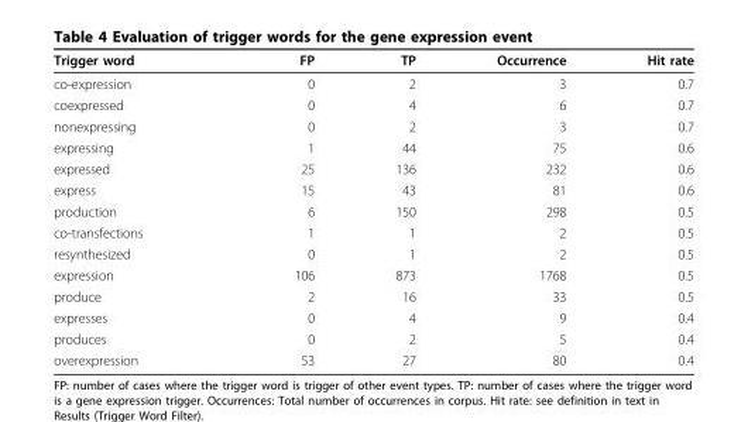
<table><thead><tr><td>Trigger word</td><td>FP</td><td>TP</td><td>Occurrence</td><td>Hit rate</td></tr></thead><tbody><tr><td>co-expression</td><td>0</td><td>2</td><td>3</td><td>0.7</td></tr><tr><td>coexpressed</td><td>0</td><td>4</td><td>6</td><td>0.7</td></tr><tr><td>nonexpressing</td><td>0</td><td>2</td><td>3</td><td>0.7</td></tr><tr><td>expressing</td><td>1</td><td>44</td><td>75</td><td>0.6</td></tr><tr><td>expressed</td><td>25</td><td>136</td><td>232</td><td>0.6</td></tr><tr><td>express</td><td>15</td><td>43</td><td>81</td><td>0.6</td></tr><tr><td>production</td><td>6</td><td>150</td><td>298</td><td>0.5</td></tr><tr><td>co-transfections</td><td>1</td><td>1</td><td>2</td><td>0.5</td></tr><tr><td>resynthesized</td><td>0</td><td>1</td><td>2</td><td>0.5</td></tr><tr><td>expression</td><td>106</td><td>873</td><td>1768</td><td>0.5</td></tr><tr><td>produce</td><td>2</td><td>16</td><td>33</td><td>0.5</td></tr><tr><td>expresses</td><td>0</td><td>4</td><td>9</td><td>0.4</td></tr><tr><td>produces</td><td>0</td><td>2</td><td>5</td><td>0.4</td></tr><tr><td>overexpression</td><td>53</td><td>27</td><td>80</td><td>0.4</td></tr></tbody></table>